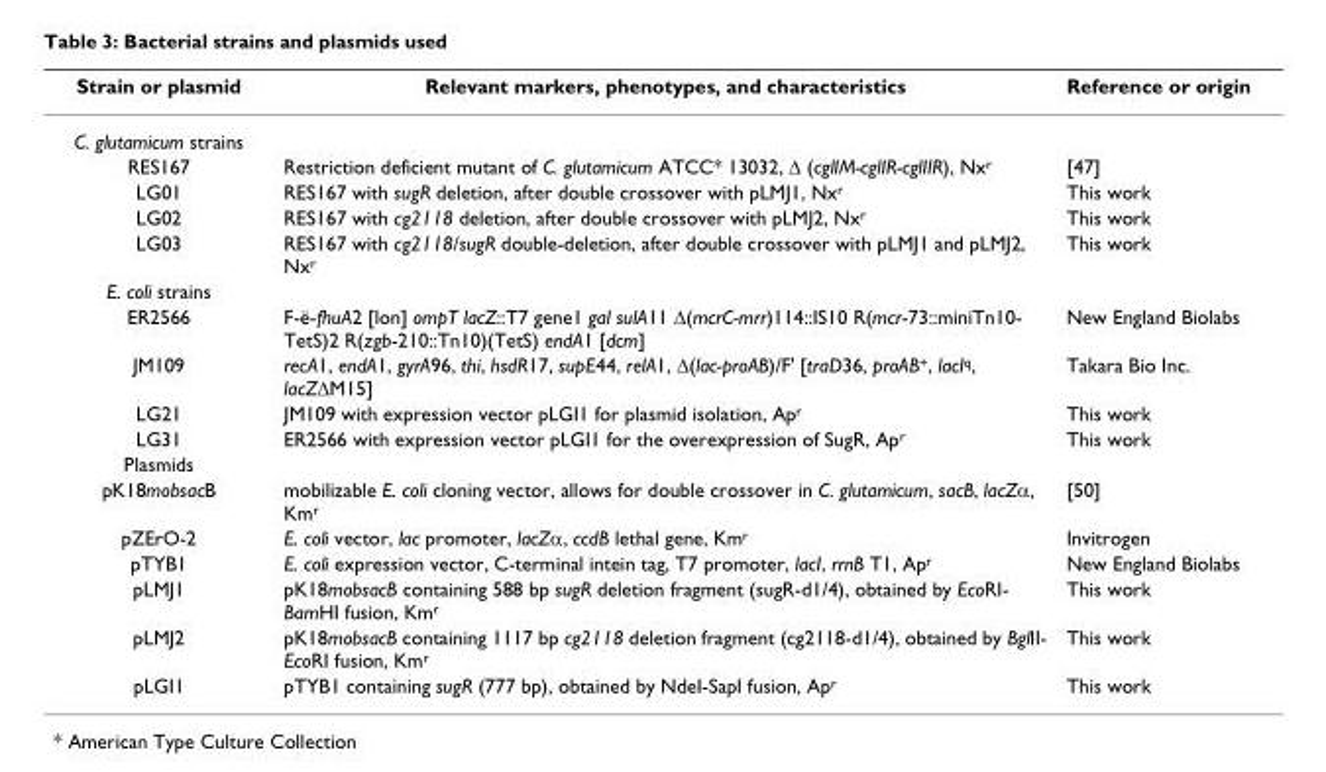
<table><thead><tr><td>Strain or plasmid</td><td>Relevant markers, phenotypes, and characteristics</td><td>Reference or origin</td></tr></thead><tbody><tr><td colspan="3">C. glutamicum strains</td></tr><tr><td>RES167</td><td>Restriction deficient mutant of C. glutamicum ATCC* 13032, Δ (cglIM-cglIR-cglIIR), Nx<sup>r</sup></td><td>[47]</td></tr><tr><td>LG01</td><td>RES167 with sugR deletion, after double crossover with pLMJ1, Nx<sup>r</sup></td><td>This work</td></tr><tr><td>LG02</td><td>RES167 with cg2118 deletion, after double crossover with pLMJ2, Nx<sup>r</sup></td><td>This work</td></tr><tr><td>LG03</td><td>RES167 with cg2118/sugR double-deletion, after double crossover with pLMJ1 and pLMJ2, Nx<sup>r</sup></td><td>This work</td></tr><tr><td colspan="3">E. coli strains</td></tr><tr><td>ER2566</td><td>F-ë-fhuA2 [lon] ompT lacZ::T7 gene1 gal sulA11 Δ(mcrC-mrr)114::IS10 R(mcr-73::miniTn10- TetS)2 R(zgb-210::Tn10)(TetS) endA1 [dcm]</td><td>New England Biolabs</td></tr><tr><td>JM109</td><td>recA1, endA1, gyrA96, thi, hsdR17, supE44, relA1, Δ(lac-proAB)/F&#x27; [traD36, proAB<sup>+</sup>, lacI<sup>q</sup>, lacZΔM15]</td><td>Takara Bio Inc.</td></tr><tr><td>LG21</td><td>JM109 with expression vector pLGI1 for plasmid isolation, Ap<sup>r</sup></td><td>This work</td></tr><tr><td>LG31</td><td>ER2566 with expression vector pLGI1 for the overexpression of SugR, Ap<sup>r</sup></td><td>This work</td></tr><tr><td colspan="3">Plasmids</td></tr><tr><td>pK18mobsacB</td><td>mobilizable E. coli cloning vector, allows for double crossover in C. glutamicum, sacB, lacZα, Km<sup>r</sup></td><td>[50]</td></tr><tr><td>pZErO-2</td><td>E. coli vector, lac promoter, lacZα, ccdB lethal gene, Km<sup>r</sup></td><td>Invitrogen</td></tr><tr><td>pTYB1</td><td>E. coli expression vector, C-terminal intein tag, T7 promoter, lacI, rrnB T1, Ap<sup>r</sup></td><td>New England Biolabs</td></tr><tr><td>pLMJ1</td><td>pK18mobsacB containing 588 bp sugR deletion fragment (sugR-d1/4), obtained by EcoRI- BamHI fusion, Km<sup>r</sup></td><td>This work</td></tr><tr><td>pLMJ2</td><td>pK18mobsacB containing 1117 bp cg2118 deletion fragment (cg2118-d1/4), obtained by BglII- EcoRI fusion, Km<sup>r</sup></td><td>This work</td></tr><tr><td>pLGI1</td><td>pTYB1 containing sugR (777 bp), obtained by NdeI-SapI fusion, Ap<sup>r</sup></td><td>This work</td></tr></tbody></table>